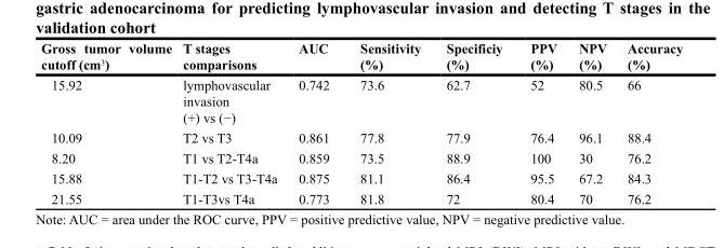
<table><thead><tr><td>Gross tumor volume cutoff (cm<sup>3</sup>)</td><td>T stages comparisons</td><td>AUC</td><td>Sensitivity (%)</td><td>Specificiy (%)</td><td>PPV (%)</td><td>NPV (%)</td><td>Accuracy (%)</td></tr></thead><tbody><tr><td>15.92</td><td>lymphovascular invasion (+) vs (−)</td><td>0.742</td><td>73.6</td><td>62.7</td><td>52</td><td>80.5</td><td>66</td></tr><tr><td>10.09</td><td>T2 vs T3</td><td>0.861</td><td>77.8</td><td>77.9</td><td>76.4</td><td>96.1</td><td>88.4</td></tr><tr><td>8.20</td><td>T1 vs T2-T4a</td><td>0.859</td><td>73.5</td><td>88.9</td><td>100</td><td>30</td><td>76.2</td></tr><tr><td>15.88</td><td>T1-T2 vs T3-T4a</td><td>0.875</td><td>81.1</td><td>86.4</td><td>95.5</td><td>67.2</td><td>84.3</td></tr><tr><td>21.55</td><td>T1-T3vs T4a</td><td>0.773</td><td>81.8</td><td>72</td><td>80.4</td><td>70</td><td>76.2</td></tr></tbody></table>